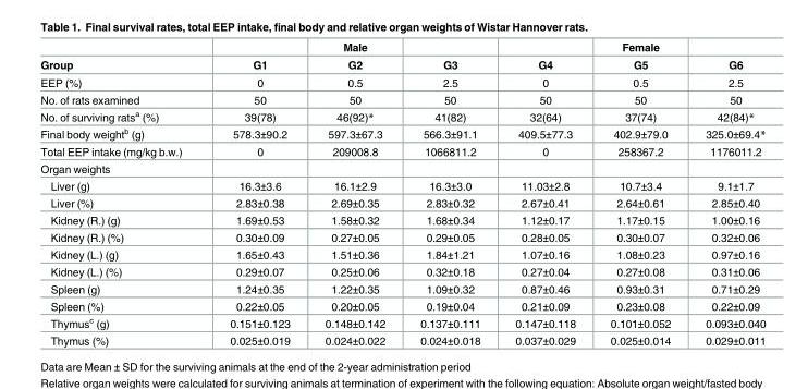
<table><thead><tr><td rowspan="2">Group</td><td rowspan="2">G1</td><td rowspan="2">Male G2</td><td rowspan="2">G3</td><td rowspan="2">G4</td><td rowspan="2">Female G5</td><td rowspan="2">G6</td></tr><tr></tr></thead><tbody><tr><td>EEP (%)</td><td>0</td><td>0.5</td><td>2.5</td><td>0</td><td>0.5</td><td>2.5</td></tr><tr><td>No. of rats examined</td><td>50</td><td>50</td><td>50</td><td>50</td><td>50</td><td>50</td></tr><tr><td>No. of surviving rats<sup>a</sup> (%)</td><td>39(78)</td><td>46(92)*</td><td>41(82)</td><td>32(64)</td><td>37(74)</td><td>42(84)*</td></tr><tr><td>Final body weight<sup>b</sup> (g)</td><td>578.3±90.2</td><td>597.3±67.3</td><td>566.3±91.1</td><td>409.5±77.3</td><td>402.9±79.0</td><td>325.0±69.4*</td></tr><tr><td>Total EEP intake (mg/kg b.w.)</td><td>0</td><td>209008.8</td><td>1066811.2</td><td>0</td><td>258367.2</td><td>1176011.2</td></tr><tr><td colspan="7">Organ weights</td></tr><tr><td>Liver (g)</td><td>16.3±3.6</td><td>16.1±2.9</td><td>16.3±3.0</td><td>11.03±2.8</td><td>10.7±3.4</td><td>9.1±1.7</td></tr><tr><td>Liver (%)</td><td>2.83±0.38</td><td>2.69±0.35</td><td>2.83±0.32</td><td>2.67±0.41</td><td>2.64±0.61</td><td>2.85±0.40</td></tr><tr><td>Kidney (R.) (g)</td><td>1.69±0.53</td><td>1.58±0.32</td><td>1.68±0.34</td><td>1.12±0.17</td><td>1.17±0.15</td><td>1.00±0.16</td></tr><tr><td>Kidney (R.) (%)</td><td>0.30±0.09</td><td>0.27±0.05</td><td>0.29±0.05</td><td>0.28±0.05</td><td>0.30±0.07</td><td>0.32±0.06</td></tr><tr><td>Kidney (L.) (g)</td><td>1.65±0.43</td><td>1.51±0.36</td><td>1.84±1.21</td><td>1.07±0.16</td><td>1.08±0.23</td><td>0.97±0.16</td></tr><tr><td>Kidney (L.) (%)</td><td>0.29±0.07</td><td>0.25±0.06</td><td>0.32±0.18</td><td>0.27±0.04</td><td>0.27±0.08</td><td>0.31±0.06</td></tr><tr><td>Spleen (g)</td><td>1.24±0.35</td><td>1.22±0.35</td><td>1.09±0.32</td><td>0.87±0.46</td><td>0.93±0.31</td><td>0.71±0.29</td></tr><tr><td>Spleen (%)</td><td>0.22±0.05</td><td>0.20±0.05</td><td>0.19±0.04</td><td>0.21±0.09</td><td>0.23±0.08</td><td>0.22±0.09</td></tr><tr><td>Thymus<sup>c</sup> (g)</td><td>0.151±0.123</td><td>0.148±0.142</td><td>0.137±0.111</td><td>0.147±0.118</td><td>0.101±0.052</td><td>0.093±0.040</td></tr><tr><td>Thymus (%)</td><td>0.025±0.019</td><td>0.024±0.022</td><td>0.024±0.018</td><td>0.037±0.029</td><td>0.025±0.014</td><td>0.029±0.011</td></tr></tbody></table>